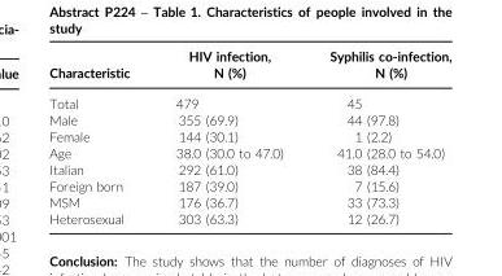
<table><thead><tr><td>Characteristic</td><td>HIV infection, N (%)</td><td>Syphilis co-infection, N (%)</td></tr></thead><tbody><tr><td>Total</td><td>479</td><td>45</td></tr><tr><td>Male</td><td>355 (69.9)</td><td>44 (97.8)</td></tr><tr><td>Female</td><td>144 (30.1)</td><td>1 (2.2)</td></tr><tr><td>Age</td><td>38.0 (30.0 to 47.0)</td><td>41.0 (28.0 to 54.0)</td></tr><tr><td>Italian</td><td>292 (61.0)</td><td>38 (84.4)</td></tr><tr><td>Foreign born</td><td>187 (39.0)</td><td>7 (15.6)</td></tr><tr><td>MSM</td><td>176 (36.7)</td><td>33 (73.3)</td></tr><tr><td>Heterosexual</td><td>303 (63.3)</td><td>12 (26.7)</td></tr></tbody></table>